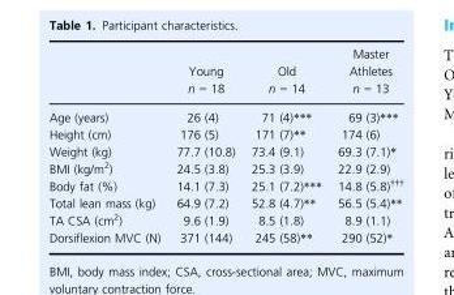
<table><thead><tr><td></td><td>Young n = 18</td><td>Old n = 14</td><td>Master Athletes n = 13</td></tr></thead><tbody><tr><td>Age (years)</td><td>26 (4)</td><td>71 (4)***</td><td>69 (3)***</td></tr><tr><td>Height (cm)</td><td>176 (5)</td><td>171 (7)**</td><td>174 (6)</td></tr><tr><td>Weight (kg)</td><td>77.7 (10.8)</td><td>73.4 (9.1)</td><td>69.3 (7.1)*</td></tr><tr><td>BMI (kg/m<sup>2</sup>)</td><td>24.5 (3.8)</td><td>25.3 (3.9)</td><td>22.9 (2.9)</td></tr><tr><td>Body fat (%)</td><td>14.1 (7.3)</td><td>25.1 (7.2)***</td><td>14.8 (5.8)†††</td></tr><tr><td>Total lean mass (kg)</td><td>64.9 (7.2)</td><td>52.8 (4.7)**</td><td>56.5 (5.4)**</td></tr><tr><td>TA CSA (cm<sup>2</sup>)</td><td>9.6 (1.9)</td><td>8.5 (1.8)</td><td>8.9 (1.1)</td></tr><tr><td>Dorsiflexion MVC (N)</td><td>371 (144)</td><td>245 (58)**</td><td>290 (52)*</td></tr></tbody></table>